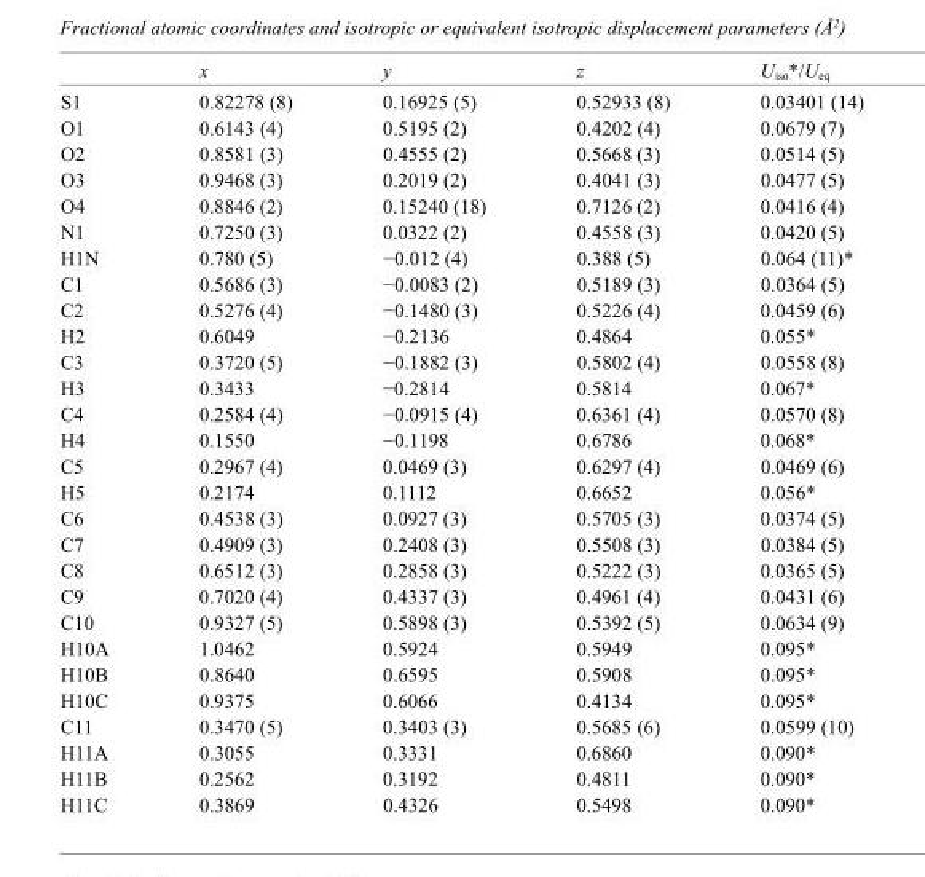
<table><thead><tr><td></td><td>x</td><td>y</td><td>z</td><td>U<sub>iso</sub>*/U<sub>eq</sub></td></tr></thead><tbody><tr><td>S1</td><td>0.82278 (8)</td><td>0.16925 (5)</td><td>0.52933 (8)</td><td>0.03401 (14)</td></tr><tr><td>O1</td><td>0.6143 (4)</td><td>0.5195 (2)</td><td>0.4202 (4)</td><td>0.0679 (7)</td></tr><tr><td>O2</td><td>0.8581 (3)</td><td>0.4555 (2)</td><td>0.5668 (3)</td><td>0.0514 (5)</td></tr><tr><td>O3</td><td>0.9468 (3)</td><td>0.2019 (2)</td><td>0.4041 (3)</td><td>0.0477 (5)</td></tr><tr><td>O4</td><td>0.8846 (2)</td><td>0.15240 (18)</td><td>0.7126 (2)</td><td>0.0416 (4)</td></tr><tr><td>N1</td><td>0.7250 (3)</td><td>0.0322 (2)</td><td>0.4558 (3)</td><td>0.0420 (5)</td></tr><tr><td>H1N</td><td>0.780 (5)</td><td>−0.012 (4)</td><td>0.388 (5)</td><td>0.064 (11)*</td></tr><tr><td>C1</td><td>0.5686 (3)</td><td>−0.0083 (2)</td><td>0.5189 (3)</td><td>0.0364 (5)</td></tr><tr><td>C2</td><td>0.5276 (4)</td><td>−0.1480 (3)</td><td>0.5226 (4)</td><td>0.0459 (6)</td></tr><tr><td>H2</td><td>0.6049</td><td>−0.2136</td><td>0.4864</td><td>0.055*</td></tr><tr><td>C3</td><td>0.3720 (5)</td><td>−0.1882 (3)</td><td>0.5802 (4)</td><td>0.0558 (8)</td></tr><tr><td>H3</td><td>0.3433</td><td>−0.2814</td><td>0.5814</td><td>0.067*</td></tr><tr><td>C4</td><td>0.2584 (4)</td><td>−0.0915 (4)</td><td>0.6361 (4)</td><td>0.0570 (8)</td></tr><tr><td>H4</td><td>0.1550</td><td>−0.1198</td><td>0.6786</td><td>0.068*</td></tr><tr><td>C5</td><td>0.2967 (4)</td><td>0.0469 (3)</td><td>0.6297 (4)</td><td>0.0469 (6)</td></tr><tr><td>H5</td><td>0.2174</td><td>0.1112</td><td>0.6652</td><td>0.056*</td></tr><tr><td>C6</td><td>0.4538 (3)</td><td>0.0927 (3)</td><td>0.5705 (3)</td><td>0.0374 (5)</td></tr><tr><td>C7</td><td>0.4909 (3)</td><td>0.2408 (3)</td><td>0.5508 (3)</td><td>0.0384 (5)</td></tr><tr><td>C8</td><td>0.6512 (3)</td><td>0.2858 (3)</td><td>0.5222 (3)</td><td>0.0365 (5)</td></tr><tr><td>C9</td><td>0.7020 (4)</td><td>0.4337 (3)</td><td>0.4961 (4)</td><td>0.0431 (6)</td></tr><tr><td>C10</td><td>0.9327 (5)</td><td>0.5898 (3)</td><td>0.5392 (5)</td><td>0.0634 (9)</td></tr><tr><td>H10A</td><td>1.0462</td><td>0.5924</td><td>0.5949</td><td>0.095*</td></tr><tr><td>H10B</td><td>0.8640</td><td>0.6595</td><td>0.5908</td><td>0.095*</td></tr><tr><td>H10C</td><td>0.9375</td><td>0.6066</td><td>0.4134</td><td>0.095*</td></tr><tr><td>C11</td><td>0.3470 (5)</td><td>0.3403 (3)</td><td>0.5685 (6)</td><td>0.0599 (10)</td></tr><tr><td>H11A</td><td>0.3055</td><td>0.3331</td><td>0.6860</td><td>0.090*</td></tr><tr><td>H11B</td><td>0.2562</td><td>0.3192</td><td>0.4811</td><td>0.090*</td></tr><tr><td>H11C</td><td>0.3869</td><td>0.4326</td><td>0.5498</td><td>0.090*</td></tr></tbody></table>